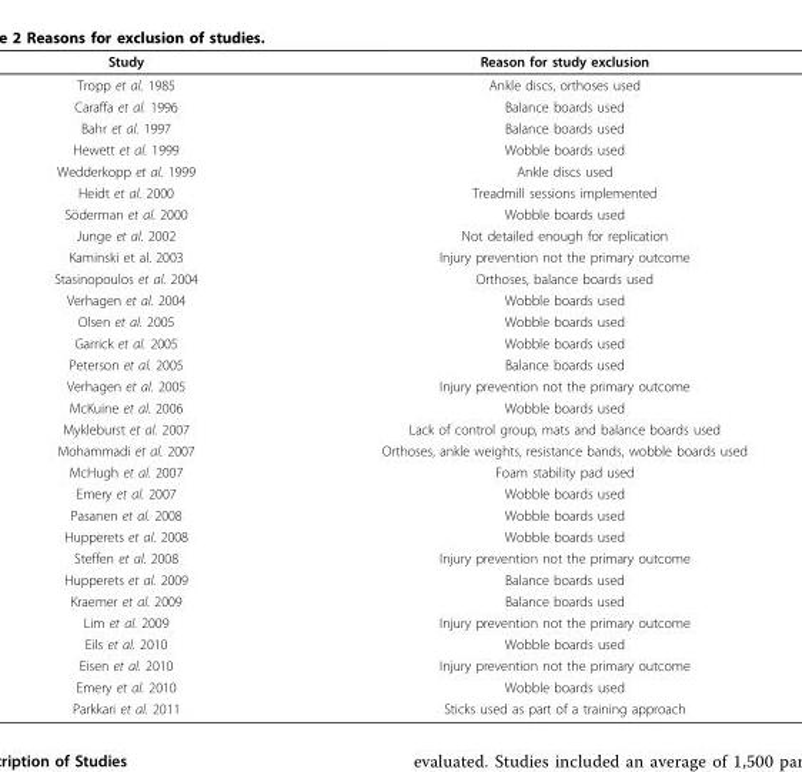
<table><thead><tr><td>Study</td><td>Reason for study exclusion</td></tr></thead><tbody><tr><td>Tropp et al. 1985</td><td>Ankle discs, orthoses used</td></tr><tr><td>Caraffa et al. 1996</td><td>Balance boards used</td></tr><tr><td>Bahr et al. 1997</td><td>Balance boards used</td></tr><tr><td>Hewett et al. 1999</td><td>Wobble boards used</td></tr><tr><td>Wedderkopp et al. 1999</td><td>Ankle discs used</td></tr><tr><td>Heidt et al. 2000</td><td>Treadmill sessions implemented</td></tr><tr><td>Söderman et al. 2000</td><td>Wobble boards used</td></tr><tr><td>Junge et al. 2002</td><td>Not detailed enough for replication</td></tr><tr><td>Kaminski et al. 2003</td><td>Injury prevention not the primary outcome</td></tr><tr><td>Stasinopoulos et al. 2004</td><td>Orthoses, balance boards used</td></tr><tr><td>Verhagen et al. 2004</td><td>Wobble boards used</td></tr><tr><td>Olsen et al. 2005</td><td>Wobble boards used</td></tr><tr><td>Garrick et al. 2005</td><td>Wobble boards used</td></tr><tr><td>Peterson et al. 2005</td><td>Balance boards used</td></tr><tr><td>Verhagen et al. 2005</td><td>Injury prevention not the primary outcome</td></tr><tr><td>McKuine et al. 2006</td><td>Wobble boards used</td></tr><tr><td>Mykleburst et al. 2007</td><td>Lack of control group, mats and balance boards used</td></tr><tr><td>Mohammadi et al. 2007</td><td>Orthoses, ankle weights, resistance bands, wobble boards used</td></tr><tr><td>McHugh et al. 2007</td><td>Foam stability pad used</td></tr><tr><td>Emery et al. 2007</td><td>Wobble boards used</td></tr><tr><td>Pasanen et al. 2008</td><td>Wobble boards used</td></tr><tr><td>Hupperets et al. 2008</td><td>Wobble boards used</td></tr><tr><td>Steffen et al. 2008</td><td>Injury prevention not the primary outcome</td></tr><tr><td>Hupperets et al. 2009</td><td>Balance boards used</td></tr><tr><td>Kraemer et al. 2009</td><td>Balance boards used</td></tr><tr><td>Lim et al. 2009</td><td>Injury prevention not the primary outcome</td></tr><tr><td>Eils et al. 2010</td><td>Wobble boards used</td></tr><tr><td>Eisen et al. 2010</td><td>Injury prevention not the primary outcome</td></tr><tr><td>Emery et al. 2010</td><td>Wobble boards used</td></tr><tr><td>Parkkari et al. 2011</td><td>Sticks used as part of a training approach</td></tr></tbody></table>